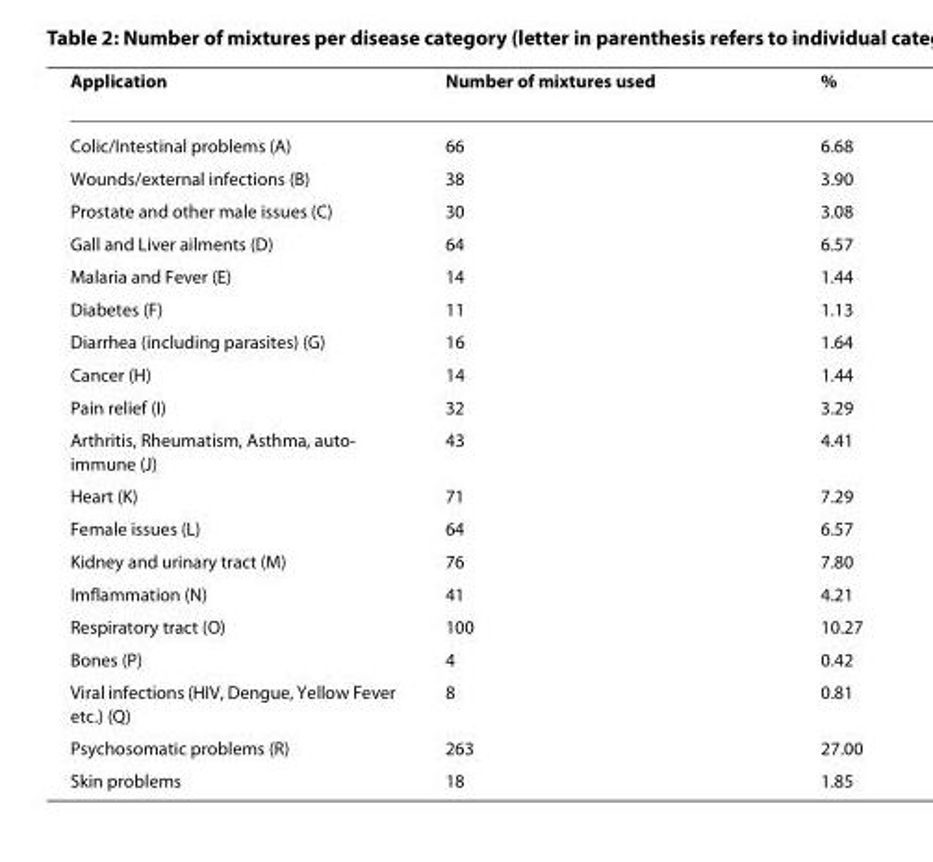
<table><thead><tr><td>Application</td><td>Number of mixtures used</td><td>%</td></tr></thead><tbody><tr><td>Colic/Intestinal problems (A)</td><td>66</td><td>6.68</td></tr><tr><td>Wounds/external infections (B)</td><td>38</td><td>3.90</td></tr><tr><td>Prostate and other male issues (C)</td><td>30</td><td>3.08</td></tr><tr><td>Gall and Liver ailments (D)</td><td>64</td><td>6.57</td></tr><tr><td>Malaria and Fever (E)</td><td>14</td><td>1.44</td></tr><tr><td>Diabetes (F)</td><td>11</td><td>1.13</td></tr><tr><td>Diarrhea (including parasites) (G)</td><td>16</td><td>1.64</td></tr><tr><td>Cancer (H)</td><td>14</td><td>1.44</td></tr><tr><td>Pain relief (I)</td><td>32</td><td>3.29</td></tr><tr><td>Arthritis, Rheumatism, Asthma, auto- immune (J)</td><td>43</td><td>4.41</td></tr><tr><td>Heart (K)</td><td>71</td><td>7.29</td></tr><tr><td>Female issues (L)</td><td>64</td><td>6.57</td></tr><tr><td>Kidney and urinary tract (M)</td><td>76</td><td>7.80</td></tr><tr><td>Imflammation (N)</td><td>41</td><td>4.21</td></tr><tr><td>Respiratory tract (O)</td><td>100</td><td>10.27</td></tr><tr><td>Bones (P)</td><td>4</td><td>0.42</td></tr><tr><td>Viral infections (HIV, Dengue, Yellow Fever etc.) (Q)</td><td>8</td><td>0.81</td></tr><tr><td>Psychosomatic problems (R)</td><td>263</td><td>27.00</td></tr><tr><td>Skin problems</td><td>18</td><td>1.85</td></tr></tbody></table>